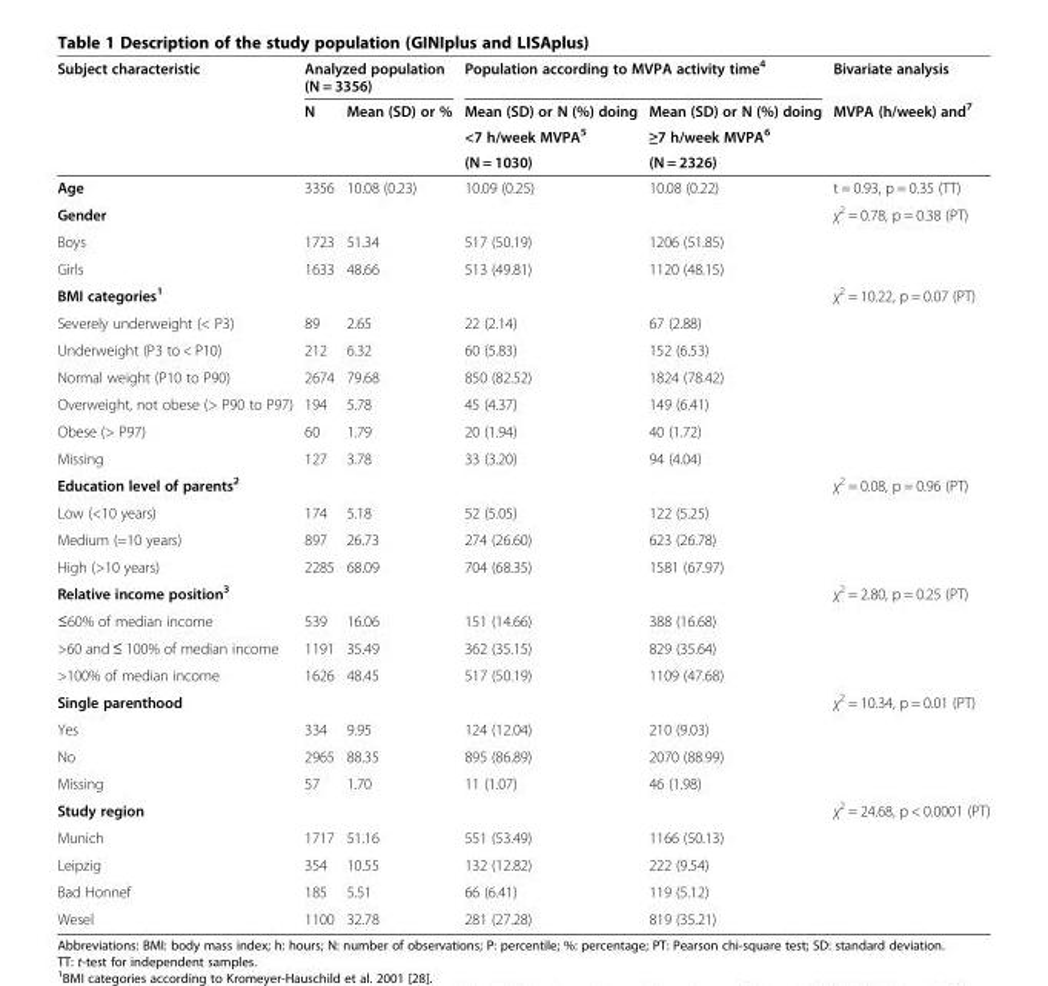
<table><thead><tr><td rowspan="4">Subject characteristic</td><td colspan="2">Analyzed population (N = 3356)</td><td colspan="2">Population according to MVPA activity time<sup>4</sup></td><td rowspan="4">Bivariate analysis MVPA (h/week) and<sup>7</sup></td></tr><tr><td rowspan="3">N</td><td rowspan="3">Mean (SD) or %</td><td rowspan="3">Mean (SD) or N (%) doing &lt;7 h/week MVPA<sup>5</sup> (N = 1030)</td><td rowspan="3">Mean (SD) or N (%) doing ≥7 h/week MVPA<sup>6</sup> (N = 2326)</td></tr><tr></tr><tr></tr></thead><tbody><tr><td>Age</td><td>3356</td><td>10.08 (0.23)</td><td>10.09 (0.25)</td><td>10.08 (0.22)</td><td>t = 0.93, p = 0.35 (TT)</td></tr><tr><td>Gender</td><td></td><td></td><td></td><td></td><td>χ<sup>2</sup> = 0.78, p = 0.38 (PT)</td></tr><tr><td>Boys</td><td>1723</td><td>51.34</td><td>517 (50.19)</td><td>1206 (51.85)</td><td></td></tr><tr><td>Girls</td><td>1633</td><td>48.66</td><td>513 (49.81)</td><td>1120 (48.15)</td><td></td></tr><tr><td>BMI categories<sup>1</sup></td><td></td><td></td><td></td><td></td><td>χ<sup>2</sup> = 10.22, p = 0.07 (PT)</td></tr><tr><td>Severely underweight (&lt; P3)</td><td>89</td><td>2.65</td><td>22 (2.14)</td><td>67 (2.88)</td><td></td></tr><tr><td>Underweight (P3 to &lt; P10)</td><td>212</td><td>6.32</td><td>60 (5.83)</td><td>152 (6.53)</td><td></td></tr><tr><td>Normal weight (P10 to P90)</td><td>2674</td><td>79.68</td><td>850 (82.52)</td><td>1824 (78.42)</td><td></td></tr><tr><td>Overweight, not obese (&gt; P90 to P97)</td><td>194</td><td>5.78</td><td>45 (4.37)</td><td>149 (6.41)</td><td></td></tr><tr><td>Obese (&gt; P97)</td><td>60</td><td>1.79</td><td>20 (1.94)</td><td>40 (1.72)</td><td></td></tr><tr><td>Missing</td><td>127</td><td>3.78</td><td>33 (3.20)</td><td>94 (4.04)</td><td></td></tr><tr><td>Education level of parents<sup>2</sup></td><td></td><td></td><td></td><td></td><td>χ<sup>2</sup> = 0.08, p = 0.96 (PT)</td></tr><tr><td>Low (&lt;10 years)</td><td>174</td><td>5.18</td><td>52 (5.05)</td><td>122 (5.25)</td><td></td></tr><tr><td>Medium (=10 years)</td><td>897</td><td>26.73</td><td>274 (26.60)</td><td>623 (26.78)</td><td></td></tr><tr><td>High (&gt;10 years)</td><td>2285</td><td>68.09</td><td>704 (68.35)</td><td>1581 (67.97)</td><td></td></tr><tr><td>Relative income position<sup>3</sup></td><td></td><td></td><td></td><td></td><td>χ<sup>2</sup> = 2.80, p = 0.25 (PT)</td></tr><tr><td>≤60% of median income</td><td>539</td><td>16.06</td><td>151 (14.66)</td><td>388 (16.68)</td><td></td></tr><tr><td>&gt;60 and ≤ 100% of median income</td><td>1191</td><td>35.49</td><td>362 (35.15)</td><td>829 (35.64)</td><td></td></tr><tr><td>&gt;100% of median income</td><td>1626</td><td>48.45</td><td>517 (50.19)</td><td>1109 (47.68)</td><td></td></tr><tr><td>Single parenthood</td><td></td><td></td><td></td><td></td><td>χ<sup>2</sup> = 10.34, p = 0.01 (PT)</td></tr><tr><td>Yes</td><td>334</td><td>9.95</td><td>124 (12.04)</td><td>210 (9.03)</td><td></td></tr><tr><td>No</td><td>2965</td><td>88.35</td><td>895 (86.89)</td><td>2070 (88.99)</td><td></td></tr><tr><td>Missing</td><td>57</td><td>1.70</td><td>11 (1.07)</td><td>46 (1.98)</td><td></td></tr><tr><td>Study region</td><td></td><td></td><td></td><td></td><td>χ<sup>2</sup> = 24.68, p &lt; 0.0001 (PT)</td></tr><tr><td>Munich</td><td>1717</td><td>51.16</td><td>551 (53.49)</td><td>1166 (50.13)</td><td></td></tr><tr><td>Leipzig</td><td>354</td><td>10.55</td><td>132 (12.82)</td><td>222 (9.54)</td><td></td></tr><tr><td>Bad Honnef</td><td>185</td><td>5.51</td><td>66 (6.41)</td><td>119 (5.12)</td><td></td></tr><tr><td>Wesel</td><td>1100</td><td>32.78</td><td>281 (27.28)</td><td>819 (35.21)</td><td></td></tr></tbody></table>